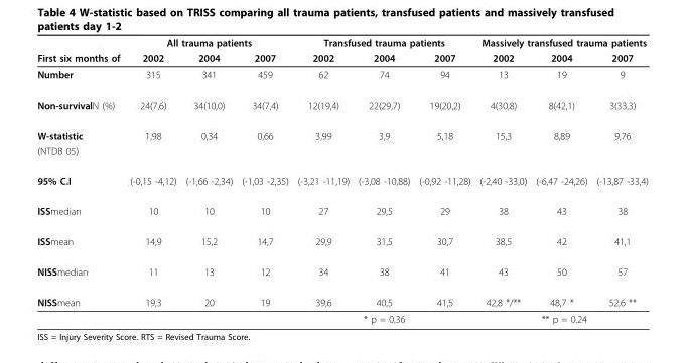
<table><thead><tr><td rowspan="2">First six months of</td><td colspan="3">All trauma patients</td><td colspan="3">Transfused trauma patients</td><td colspan="3">Massively transfused trauma patients</td></tr><tr><td>2002</td><td>2004</td><td>2007</td><td>2002</td><td>2004</td><td>2007</td><td>2002</td><td>2004</td><td>2007</td></tr></thead><tbody><tr><td>Number</td><td>315</td><td>341</td><td>459</td><td>62</td><td>74</td><td>94</td><td>13</td><td>19</td><td>9</td></tr><tr><td>Non-survivalN (%)</td><td>24(7,6)</td><td>34(10,0)</td><td>34(7,4)</td><td>12(19,4)</td><td>22(29,7)</td><td>19(20,2)</td><td>4(30,8)</td><td>8(42,1)</td><td>3(33,3)</td></tr><tr><td>W-statistic</td><td>1,98</td><td>0,34</td><td>0,66</td><td>3,99</td><td>3,9</td><td>5,18</td><td>15,3</td><td>8,89</td><td>9,76</td></tr><tr><td colspan="10">(NTDB 05)</td></tr><tr><td>95% C.I</td><td>(-0,15 -4,12)</td><td>(-1,66 -2,34)</td><td>(-1,03 -2,35)</td><td>(-3,21 -11,19)</td><td>(-3,08 -10,88)</td><td>(-0,92 -11,28)</td><td>(-2,40 -33,0)</td><td>(-6,47 -24,26)</td><td>(-13,87 -33,4)</td></tr><tr><td>ISSmedian</td><td>10</td><td>10</td><td>10</td><td>27</td><td>29,5</td><td>29</td><td>38</td><td>43</td><td>38</td></tr><tr><td>ISSmean</td><td>14,9</td><td>15,2</td><td>14,7</td><td>29,9</td><td>31,5</td><td>30,7</td><td>38,5</td><td>42</td><td>41,1</td></tr><tr><td>NISSmedian</td><td>11</td><td>13</td><td>12</td><td>34</td><td>38</td><td>41</td><td>43</td><td>50</td><td>57</td></tr><tr><td rowspan="2">NISSmean</td><td>19,3</td><td>20</td><td>19</td><td>39,6</td><td>40,5</td><td>41,5</td><td>42,8 */**</td><td>48,7 *</td><td>52,6 **</td></tr><tr><td></td><td></td><td></td><td colspan="3">* p = 0.36</td><td colspan="3">** p = 0.24</td></tr></tbody></table>